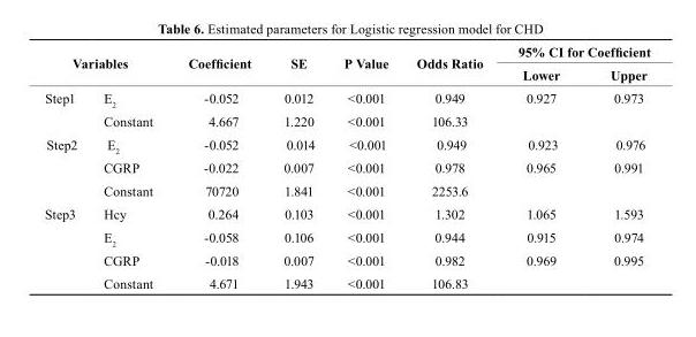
<table><thead><tr><td rowspan="2" colspan="2">Variables</td><td rowspan="3">Coefficient -0.052</td><td rowspan="3">sE 0.012</td><td rowspan="3">P Value &lt;0.001</td><td rowspan="3">Odds ratio 0.949</td><td colspan="2">95% CI for Coefficient</td></tr><tr><td rowspan="2">Lower 0.927</td><td rowspan="2">Upper 0.973</td></tr><tr><td>Step1</td><td>E<sub>2</sub></td></tr></thead><tbody><tr><td></td><td>Constant</td><td>4.667</td><td>1.220</td><td>&lt;0.001</td><td>106.33</td><td></td><td></td></tr><tr><td rowspan="3">Step2</td><td>E<sub>2</sub></td><td>-0.052</td><td>0.014</td><td>&lt;0.001</td><td>0.949</td><td>0.923</td><td>0.976</td></tr><tr><td>CGRP</td><td>-0.022</td><td>0.007</td><td>&lt;0.001</td><td>0.978</td><td>0.965</td><td>0.991</td></tr><tr><td>Constant</td><td>70720</td><td>1.841</td><td>&lt;0.001</td><td>2253.6</td><td></td><td></td></tr><tr><td rowspan="4">Step3</td><td>Hcy</td><td>0.264</td><td>0.103</td><td>&lt;0.001</td><td>1.302</td><td>1.065</td><td>1.593</td></tr><tr><td>E<sub>2</sub></td><td>-0.058</td><td>0.106</td><td>&lt;0.001</td><td>0.944</td><td>0.915</td><td>0.974</td></tr><tr><td>CGRP</td><td>-0.018</td><td>0.007</td><td>&lt;0.001</td><td>0.982</td><td>0.969</td><td>0.995</td></tr><tr><td>Constant</td><td>4.671</td><td>1.943</td><td>&lt;0.001</td><td>106.83</td><td></td><td></td></tr></tbody></table>